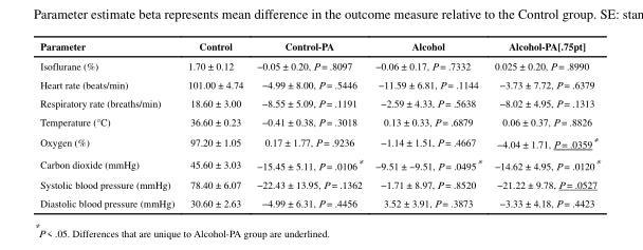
<table><thead><tr><td>Parameter</td><td>Control</td><td>Control-PA</td><td>Alcohol</td><td>Alcohol-PA[.75pt]</td></tr></thead><tbody><tr><td>Isoflurane (%)</td><td>1.70 ± 0.12</td><td>−0.05 ± 0.20, P = .8097</td><td>−0.06 ± 0.17, P = .7332</td><td>0.025 ± 0.20, P = .8990</td></tr><tr><td>Heart rate (beats/min)</td><td>101.00 ± 4.74</td><td>−4.99 ± 8.00, P = .5446</td><td>−11.59 ± 6.81, P = .1144</td><td>−3.73 ± 7.72, P = .6379</td></tr><tr><td>Respiratory rate (breaths/min)</td><td>18.60 ± 3.00</td><td>−8.55 ± 5.09, P = .1191</td><td>−2.59 ± 4.33, P = .5638</td><td>−8.02 ± 4.95, P = .1313</td></tr><tr><td>Temperature (°C)</td><td>36.60 ± 0.23</td><td>−0.41 ± 0.38, P = .3018</td><td>0.13 ± 0.33, P = .6879</td><td>0.06 ± 0.37, P = .8826</td></tr><tr><td>Oxygen (%)</td><td>97.20 ± 1.05</td><td>0.17 ± 1.77, P = .9236</td><td>−1.14 ± 1.51, P = .4667</td><td>−4.04 ± 1.71, P = .0359*</td></tr><tr><td>Carbon dioxide (mmHg)</td><td>45.60 ± 3.03</td><td>−15.45 ± 5.11, P = .0106*</td><td>−9.51 ± −9.51, P = .0495*</td><td>−14.62 ± 4.95, P = .0120*</td></tr><tr><td>Systolic blood pressure (mmHg)</td><td>78.40 ± 6.07</td><td>−22.43 ± 13.95, P = .1362</td><td>−1.71 ± 8.97, P = .8520</td><td>−21.22 ± 9.78, P = .0527</td></tr><tr><td>Diastolic blood pressure (mmHg)</td><td>30.60 ± 2.63</td><td>−4.99 ± 6.31, P = .4456</td><td>3.52 ± 3.91, P = .3873</td><td>−3.33 ± 4.18, P = .4423</td></tr></tbody></table>